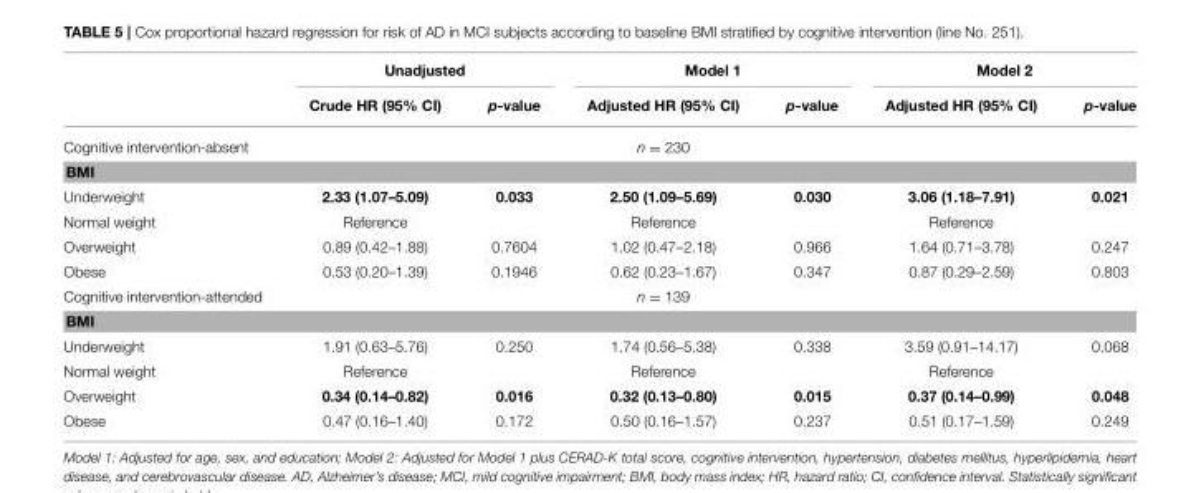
<table><thead><tr><td rowspan="2"></td><td colspan="2">Unadjusted</td><td colspan="2">Model 1</td><td colspan="2">Model 2</td></tr><tr><td>Crude HR (95% CI)</td><td>p-value</td><td>Adjusted HR (95% CI)</td><td>p-value</td><td>Adjusted HR (95% CI)</td><td>p-value</td></tr></thead><tbody><tr><td>Cognitive intervention-absent</td><td></td><td></td><td>n = 230</td><td></td><td></td><td></td></tr><tr><td colspan="7">BMI</td></tr><tr><td>Underweight</td><td>2.33 (1.07–5.09)</td><td>0.033</td><td>2.50 (1.09–5.69)</td><td>0.030</td><td>3.06 (1.18–7.91)</td><td>0.021</td></tr><tr><td>Normal weight</td><td>Reference</td><td></td><td>Reference</td><td></td><td>Reference</td><td></td></tr><tr><td>Overweight</td><td>0.89 (0.42–1.88)</td><td>0.7604</td><td>1.02 (0.47–2.18)</td><td>0.966</td><td>1.64 (0.71–3.78)</td><td>0.247</td></tr><tr><td>Obese</td><td>0.53 (0.20–1.39)</td><td>0.1946</td><td>0.62 (0.23–1.67)</td><td>0.347</td><td>0.87 (0.29–2.59)</td><td>0.803</td></tr><tr><td>Cognitive intervention-attended</td><td></td><td></td><td>n = 139</td><td></td><td></td><td></td></tr><tr><td colspan="7">BMI</td></tr><tr><td>Underweight</td><td>1.91 (0.63–5.76)</td><td>0.250</td><td>1.74 (0.56–5.38)</td><td>0.338</td><td>3.59 (0.91–14.17)</td><td>0.068</td></tr><tr><td>Normal weight</td><td>Reference</td><td></td><td>Reference</td><td></td><td>Reference</td><td></td></tr><tr><td>Overweight</td><td>0.34 (0.14–0.82)</td><td>0.016</td><td>0.32 (0.13–0.80)</td><td>0.015</td><td>0.37 (0.14–0.99)</td><td>0.048</td></tr><tr><td>Obese</td><td>0.47 (0.16–1.40)</td><td>0.172</td><td>0.50 (0.16–1.57)</td><td>0.237</td><td>0.51 (0.17–1.59)</td><td>0.249</td></tr></tbody></table>